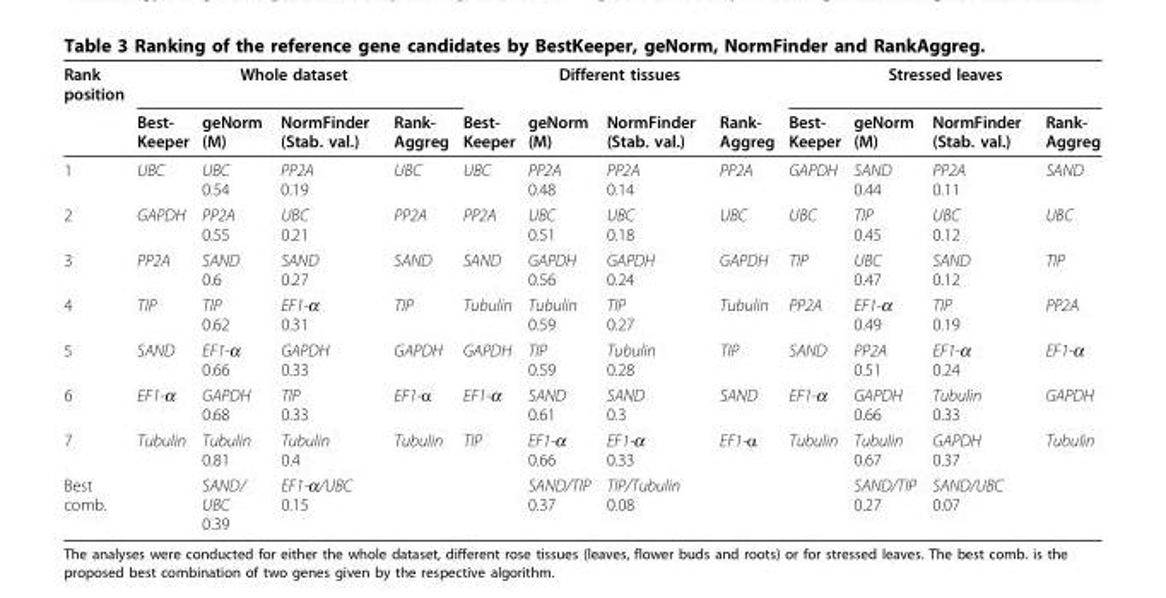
<table><thead><tr><td rowspan="2">Rank position</td><td colspan="4">Whole dataset</td><td colspan="4">Different tissues</td><td colspan="4">Stressed leaves</td></tr><tr><td>Best- Keeper</td><td>geNorm (M)</td><td>NormFinder (Stab. val.)</td><td>Rank- Aggreg</td><td>Best- Keeper</td><td>geNorm (M)</td><td>NormFinder (Stab. val.)</td><td>Rank- Aggreg</td><td>Best- Keeper</td><td>geNorm (M)</td><td>NormFinder (Stab. val.)</td><td>Rank- Aggreg</td></tr></thead><tbody><tr><td>1</td><td>UBC</td><td>UBC 0.54</td><td>PP2A 0.19</td><td>UBC</td><td>UBC</td><td>PP2A 0.48</td><td>PP2A 0.14</td><td>PP2A</td><td>GAPDH</td><td>SAND 0.44</td><td>PP2A 0.11</td><td>SAND</td></tr><tr><td>2</td><td>GAPDH</td><td>PP2A 0.55</td><td>UBC 0.21</td><td>PP2A</td><td>PP2A</td><td>UBC 0.51</td><td>UBC 0.18</td><td>UBC</td><td>UBC</td><td>TIP 0.45</td><td>UBC 0.12</td><td>UBC</td></tr><tr><td>3</td><td>PP2A</td><td>SAND 0.6</td><td>SAND 0.27</td><td>SAND</td><td>SAND</td><td>GAPDH 0.56</td><td>GAPDH 0.24</td><td>GAPDH</td><td>TIP</td><td>UBC 0.47</td><td>SAND 0.12</td><td>TIP</td></tr><tr><td>4</td><td>TIP</td><td>TIP 0.62</td><td>EF1-α 0.31</td><td>TIP</td><td>Tubulin</td><td>Tubulin 0.59</td><td>TIP 0.27</td><td>Tubulin</td><td>PP2A</td><td>EF1-α 0.49</td><td>TIP 0.19</td><td>PP2A</td></tr><tr><td>5</td><td>SAND</td><td>EF1-α 0.66</td><td>GAPDH 0.33</td><td>GAPDH</td><td>GAPDH</td><td>TIP 0.59</td><td>Tubulin 0.28</td><td>TIP</td><td>SAND</td><td>PP2A 0.51</td><td>EF1-α 0.24</td><td>EF1-α</td></tr><tr><td>6</td><td>EF1-α</td><td>GAPDH 0.68</td><td>TIP 0.33</td><td>EF1-α</td><td>EF1-α</td><td>SAND 0.61</td><td>SAND 0.3</td><td>SAND</td><td>EF1-α</td><td>GAPDH 0.66</td><td>Tubulin 0.33</td><td>GAPDH</td></tr><tr><td>7</td><td>Tubulin</td><td>Tubulin 0.81</td><td>Tubulin 0.4</td><td>Tubulin</td><td>TIP</td><td>EF1-α 0.66</td><td>EF1-α 0.33</td><td>EF1-α</td><td>Tubulin</td><td>Tubulin 0.67</td><td>GAPDH 0.37</td><td>Tubulin</td></tr><tr><td>Best comb.</td><td></td><td>SAND/ UBC 0.39</td><td>EF1-α/UBC 0.15</td><td></td><td></td><td>SAND/TIP 0.37</td><td>TIP/Tubulin 0.08</td><td></td><td></td><td>SAND/TIP 0.27</td><td>SAND/UBC 0.07</td><td></td></tr></tbody></table>